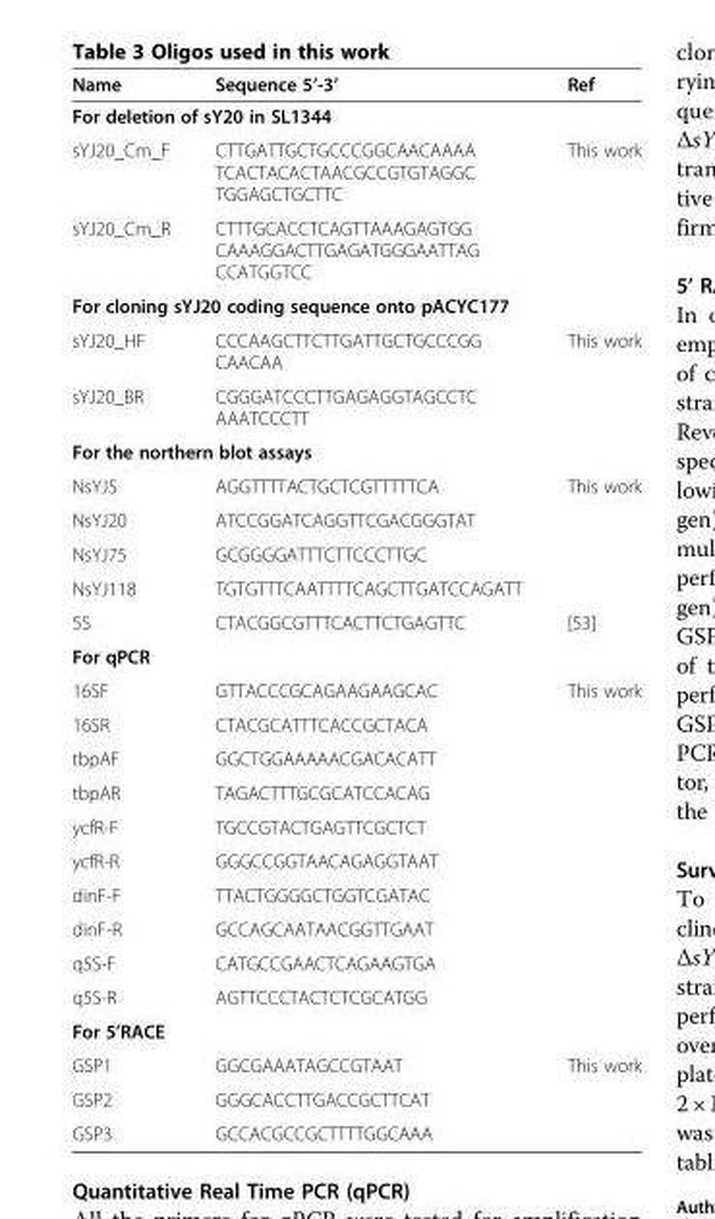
<table><thead><tr><td>Name</td><td>Sequence 5’-3’</td><td>Ref</td></tr></thead><tbody><tr><td colspan="3">For deletion of sY20 in SL1344</td></tr><tr><td>sYJ20_Cm_F</td><td>CTTGATTGCTGCCCGGCAACAAAA TCACTACACTAACGCCGTGTAGGC TGGAGCTGCTTC</td><td>This work</td></tr><tr><td>sYJ20_Cm_R</td><td>CTTTGCACCTCAGTTAAAGAGTGG CAAAGGACTTGAGATGGGAATTAG CCATGGTCC</td><td></td></tr><tr><td colspan="3">For cloning sYJ20 coding sequence onto pACYC177</td></tr><tr><td>sYJ20_HF</td><td>CCCAAGCTTCTTGATTGCTGCCCGG CAACAA</td><td>This work</td></tr><tr><td>sYJ20_BR</td><td>CGGGATCCCTTGAGAGGTAGCCTC AAATCCCTT</td><td></td></tr><tr><td colspan="3">For the northern blot assays</td></tr><tr><td>NsYJ5</td><td>AGGTTTTACTGCTCGTTTTTCA</td><td>This work</td></tr><tr><td>NsYJ20</td><td>ATCCGGATCAGGTTCGACGGGTAT</td><td></td></tr><tr><td>NsYJ75</td><td>GCGGGGATTTCTTCCCTTGC</td><td></td></tr><tr><td>NsYJ118</td><td>TGTGTTTCAATTTTCAGCTTGATCCAGATT</td><td></td></tr><tr><td>5S</td><td>CTACGGCGTTTCACTTCTGAGTTC</td><td>[53]</td></tr><tr><td colspan="3">For qPCR</td></tr><tr><td>16SF</td><td>GTTACCCGCAGAAGAAGCAC</td><td>This work</td></tr><tr><td>16SR</td><td>CTACGCATTTCACCGCTACA</td><td></td></tr><tr><td>tbpAF</td><td>GGCTGGAAAAACGACACATT</td><td></td></tr><tr><td>tbpAR</td><td>TAGACTTTGCGCATCCACAG</td><td></td></tr><tr><td>ycfR-F</td><td>TGCCGTACTGAGTTCGCTCT</td><td></td></tr><tr><td>ycfR-R</td><td>GGGCCGGTAACAGAGGTAAT</td><td></td></tr><tr><td>dinF-F</td><td>TTACTGGGGCTGGTCGATAC</td><td></td></tr><tr><td>dinF-R</td><td>GCCAGCAATAACGGTTGAAT</td><td></td></tr><tr><td>q5S-F</td><td>CATGCCGAACTCAGAAGTGA</td><td></td></tr><tr><td>q5S-R</td><td>AGTTCCCTACTCTCGCATGG</td><td></td></tr><tr><td colspan="3">For 5’RACE</td></tr><tr><td>GSP1</td><td>GGCGAAATAGCCGTAAT</td><td>This work</td></tr><tr><td>GSP2</td><td>GGGCACCTTGACCGCTTCAT</td><td></td></tr><tr><td>GSP3</td><td>GCCACGCCGCTTTTGGCAAA</td><td></td></tr></tbody></table>